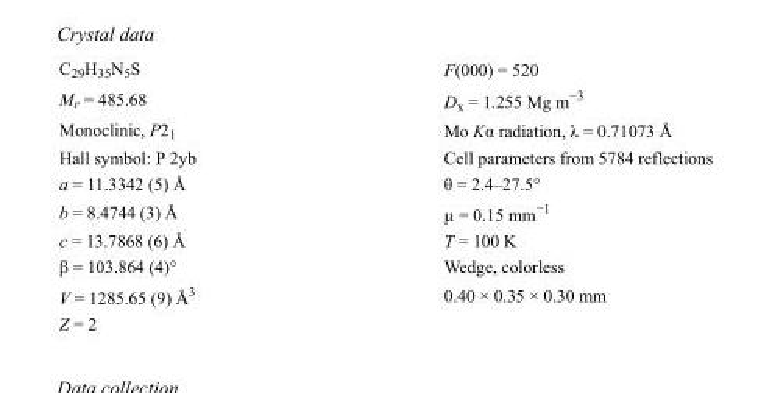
<table><tbody><tr><td>C<sub>29</sub>H<sub>35</sub>N<sub>5</sub>S</td><td>F(000) = 520</td></tr><tr><td>M<sub>r</sub> = 485.68</td><td>D<sub>x</sub> = 1.255 Mg m<sup>−3</sup></td></tr><tr><td>Monoclinic, P2<sub>1</sub></td><td>Mo Kα radiation, λ = 0.71073 Å</td></tr><tr><td>Hall symbol: P 2yb</td><td>Cell parameters from 5784 reflections</td></tr><tr><td>a = 11.3342 (5) Å</td><td>θ = 2.4–27.5°</td></tr><tr><td>b = 8.4744 (3) Å</td><td>µ = 0.15 mm<sup>−1</sup></td></tr><tr><td>c = 13.7868 (6) Å</td><td>T = 100 K</td></tr><tr><td>β = 103.864 (4)°</td><td>Wedge, colorless</td></tr><tr><td>V = 1285.65 (9) Å<sup>3</sup></td><td>0.40 × 0.35 × 0.30 mm</td></tr><tr><td>Z = 2</td><td></td></tr></tbody></table>